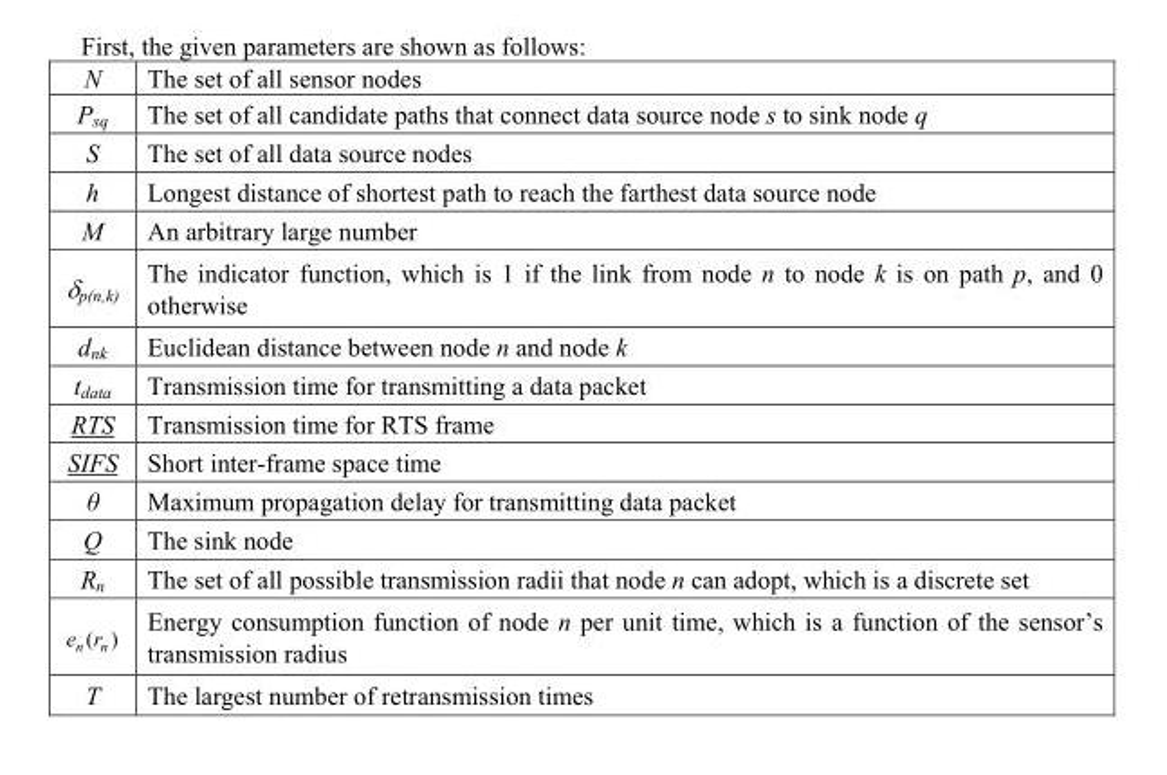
<table><tbody><tr><td>N</td><td>The set of all sensor nodes</td></tr><tr><td>P<sub>sq</sub></td><td>The set of all candidate paths that connect data source node s to sink node q</td></tr><tr><td>S</td><td>The set of all data source nodes</td></tr><tr><td>h</td><td>Longest distance of shortest path to reach the farthest data source node</td></tr><tr><td>M</td><td>An arbitrary large number</td></tr><tr><td>δ<sub>p(n,k)</sub></td><td>The indicator function, which is 1 if the link from node n to node k is on path p, and 0 otherwise</td></tr><tr><td>d<sub>nk</sub></td><td>Euclidean distance between node n and node k</td></tr><tr><td>t<sub>data</sub></td><td>Transmission time for transmitting a data packet</td></tr><tr><td>RTS</td><td>Transmission time for RTS frame</td></tr><tr><td>SIFS</td><td>Short inter-frame space time</td></tr><tr><td>θ</td><td>Maximum propagation delay for transmitting data packet</td></tr><tr><td>Q</td><td>The sink node</td></tr><tr><td>R<sub>n</sub></td><td>The set of all possible transmission radii that node n can adopt, which is a discrete set</td></tr><tr><td>) ( n n r e</td><td>Energy consumption function of node n per unit time, which is a function of the sensor’s transmission radius</td></tr><tr><td>T</td><td>The largest number of retransmission times</td></tr></tbody></table>